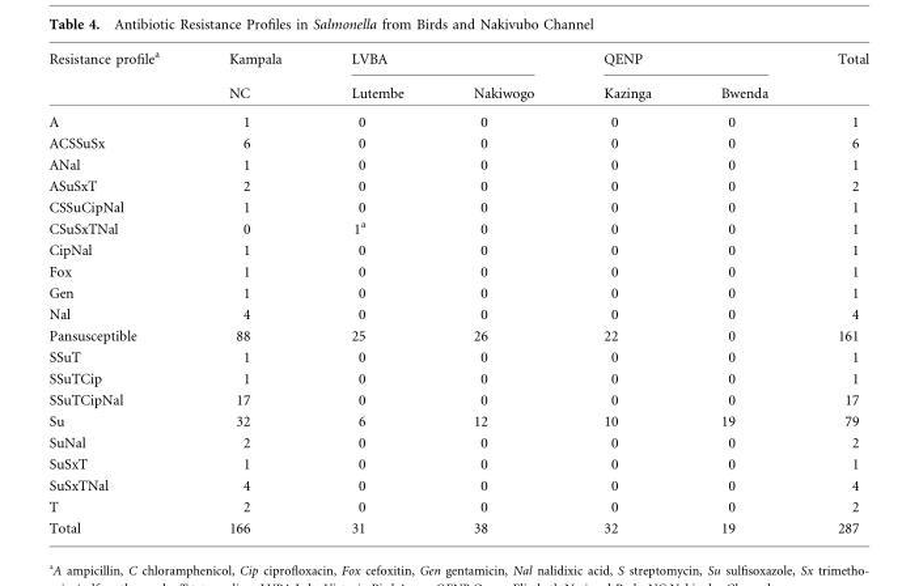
<table><thead><tr><td rowspan="2">Resistance profile<sup>a</sup></td><td rowspan="2">Kampala NC</td><td colspan="2">LVBA</td><td colspan="2">QENP</td><td rowspan="2">Total</td></tr><tr><td>Lutembe</td><td>Nakiwogo</td><td>Kazinga</td><td>Bwenda</td></tr></thead><tbody><tr><td>A</td><td>1</td><td>0</td><td>0</td><td>0</td><td>0</td><td>1</td></tr><tr><td>ACSSuSx</td><td>6</td><td>0</td><td>0</td><td>0</td><td>0</td><td>6</td></tr><tr><td>ANal</td><td>1</td><td>0</td><td>0</td><td>0</td><td>0</td><td>1</td></tr><tr><td>ASuSxT</td><td>2</td><td>0</td><td>0</td><td>0</td><td>0</td><td>2</td></tr><tr><td>CSSuCipNal</td><td>1</td><td>0</td><td>0</td><td>0</td><td>0</td><td>1</td></tr><tr><td>CSuSxTNal</td><td>0</td><td>1<sup>a</sup></td><td>0</td><td>0</td><td>0</td><td>1</td></tr><tr><td>CipNal</td><td>1</td><td>0</td><td>0</td><td>0</td><td>0</td><td>1</td></tr><tr><td>Fox</td><td>1</td><td>0</td><td>0</td><td>0</td><td>0</td><td>1</td></tr><tr><td>Gen</td><td>1</td><td>0</td><td>0</td><td>0</td><td>0</td><td>1</td></tr><tr><td>Nal</td><td>4</td><td>0</td><td>0</td><td>0</td><td>0</td><td>4</td></tr><tr><td>Pansusceptible</td><td>88</td><td>25</td><td>26</td><td>22</td><td>0</td><td>161</td></tr><tr><td>SSuT</td><td>1</td><td>0</td><td>0</td><td>0</td><td>0</td><td>1</td></tr><tr><td>SSuTCip</td><td>1</td><td>0</td><td>0</td><td>0</td><td>0</td><td>1</td></tr><tr><td>SSuTCipNal</td><td>17</td><td>0</td><td>0</td><td>0</td><td>0</td><td>17</td></tr><tr><td>Su</td><td>32</td><td>6</td><td>12</td><td>10</td><td>19</td><td>79</td></tr><tr><td>SuNal</td><td>2</td><td>0</td><td>0</td><td>0</td><td>0</td><td>2</td></tr><tr><td>SuSxT</td><td>1</td><td>0</td><td>0</td><td>0</td><td>0</td><td>1</td></tr><tr><td>SuSxTNal</td><td>4</td><td>0</td><td>0</td><td>0</td><td>0</td><td>4</td></tr><tr><td>T</td><td>2</td><td>0</td><td>0</td><td>0</td><td>0</td><td>2</td></tr><tr><td>Total</td><td>166</td><td>31</td><td>38</td><td>32</td><td>19</td><td>287</td></tr></tbody></table>